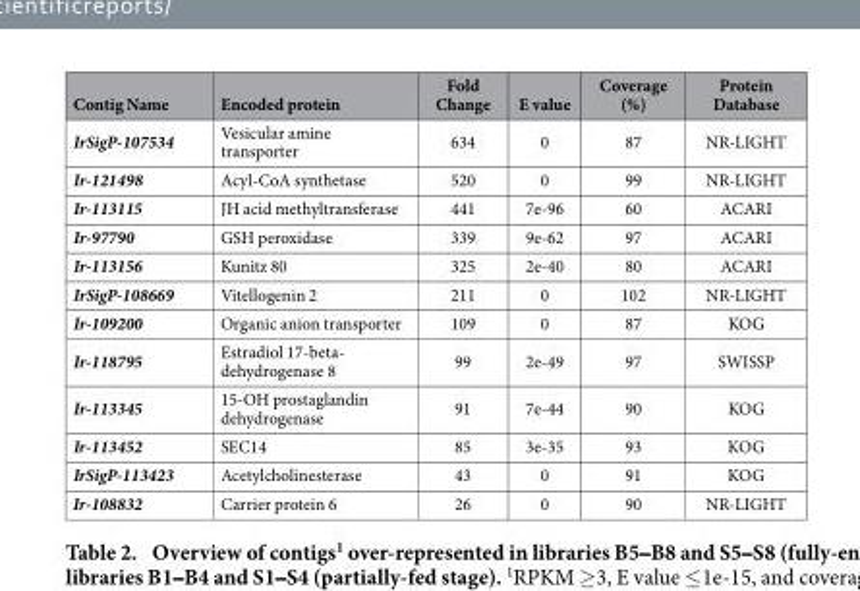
<table><thead><tr><td>Contig Name</td><td>Encoded protein</td><td>Fold Change</td><td>E value</td><td>Coverage (%)</td><td>Protein Database</td></tr></thead><tbody><tr><td>IrSigP-107534</td><td>Vesicular amine transporter</td><td>634</td><td>0</td><td>87</td><td>NR-LIGHT</td></tr><tr><td>Ir-121498</td><td>Acyl-CoA synthetase</td><td>520</td><td>0</td><td>99</td><td>NR-LIGHT</td></tr><tr><td>Ir-113115</td><td>JH acid methyltransferase</td><td>441</td><td>7e-96</td><td>60</td><td>ACARI</td></tr><tr><td>Ir-97790</td><td>GSH peroxidase</td><td>339</td><td>9e-62</td><td>97</td><td>ACARI</td></tr><tr><td>Ir-113156</td><td>Kunitz 80</td><td>325</td><td>2e-40</td><td>80</td><td>ACARI</td></tr><tr><td>IrSigP-108669</td><td>Vitellogenin 2</td><td>211</td><td>0</td><td>102</td><td>NR-LIGHT</td></tr><tr><td>Ir-109200</td><td>Organic anion transporter</td><td>109</td><td>0</td><td>87</td><td>KOG</td></tr><tr><td>Ir-118795</td><td>Estradiol 17-beta- dehydrogenase 8</td><td>99</td><td>2e-49</td><td>97</td><td>SWISSP</td></tr><tr><td>Ir-113345</td><td>15-OH prostaglandin dehydrogenase</td><td>91</td><td>7e-44</td><td>90</td><td>KOG</td></tr><tr><td>Ir-113452</td><td>SEC14</td><td>85</td><td>3e-35</td><td>93</td><td>KOG</td></tr><tr><td>IrSigP-113423</td><td>Acetylcholinesterase</td><td>43</td><td>0</td><td>91</td><td>KOG</td></tr><tr><td>Ir-108832</td><td>Carrier protein 6</td><td>26</td><td>0</td><td>90</td><td>NR-LIGHT</td></tr></tbody></table>